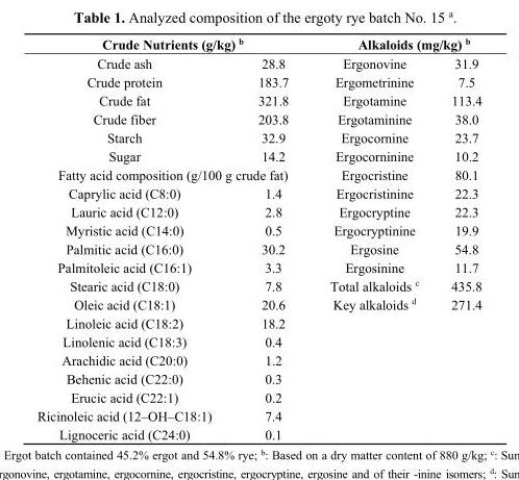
<table><thead><tr><td colspan="2">Crude Nutrients (g/kg) <sup>b</sup></td><td colspan="2">Alkaloids (mg/kg) <sup>b</sup></td></tr><tr><td>Crude ash</td><td>28.8</td><td>Ergonovine</td><td>31.9</td></tr></thead><tbody><tr><td>Crude protein</td><td>183.7</td><td>Ergometrinine</td><td>7.5</td></tr><tr><td>Crude fat</td><td>321.8</td><td>Ergotamine</td><td>113.4</td></tr><tr><td>Crude fiber</td><td>203.8</td><td>Ergotaminine</td><td>38.0</td></tr><tr><td>Starch</td><td>32.9</td><td>Ergocornine</td><td>23.7</td></tr><tr><td>Sugar</td><td>14.2</td><td>Ergocorninine</td><td>10.2</td></tr><tr><td colspan="2">Fatty acid composition (g/100 g crude fat)</td><td>Ergocristine</td><td>80.1</td></tr><tr><td>Caprylic acid (C8:0)</td><td>1.4</td><td>Ergocristinine</td><td>22.3</td></tr><tr><td>Lauric acid (C12:0)</td><td>2.8</td><td>Ergocryptine</td><td>22.3</td></tr><tr><td>Myristic acid (C14:0)</td><td>0.5</td><td>Ergocryptinine</td><td>19.9</td></tr><tr><td>Palmitic acid (C16:0)</td><td>30.2</td><td>Ergosine</td><td>54.8</td></tr><tr><td>Palmitoleic acid (C16:1)</td><td>3.3</td><td>Ergosinine</td><td>11.7</td></tr><tr><td>Stearic acid (C18:0)</td><td>7.8</td><td>Total alkaloids <sup>c</sup></td><td>435.8</td></tr><tr><td>Oleic acid (C18:1)</td><td>20.6</td><td>Key alkaloids <sup>d</sup></td><td>271.4</td></tr><tr><td>Linoleic acid (C18:2)</td><td>18.2</td><td></td><td></td></tr><tr><td>Linolenic acid (C18:3)</td><td>0.4</td><td></td><td></td></tr><tr><td>Arachidic acid (C20:0)</td><td>1.2</td><td></td><td></td></tr><tr><td>Behenic acid (C22:0)</td><td>0.3</td><td></td><td></td></tr><tr><td>Erucic acid (C22:1)</td><td>0.2</td><td></td><td></td></tr><tr><td>Ricinoleic acid (12–OH–C18:1)</td><td>7.4</td><td></td><td></td></tr><tr><td>Lignoceric acid (C24:0)</td><td>0.1</td><td></td><td></td></tr></tbody></table>